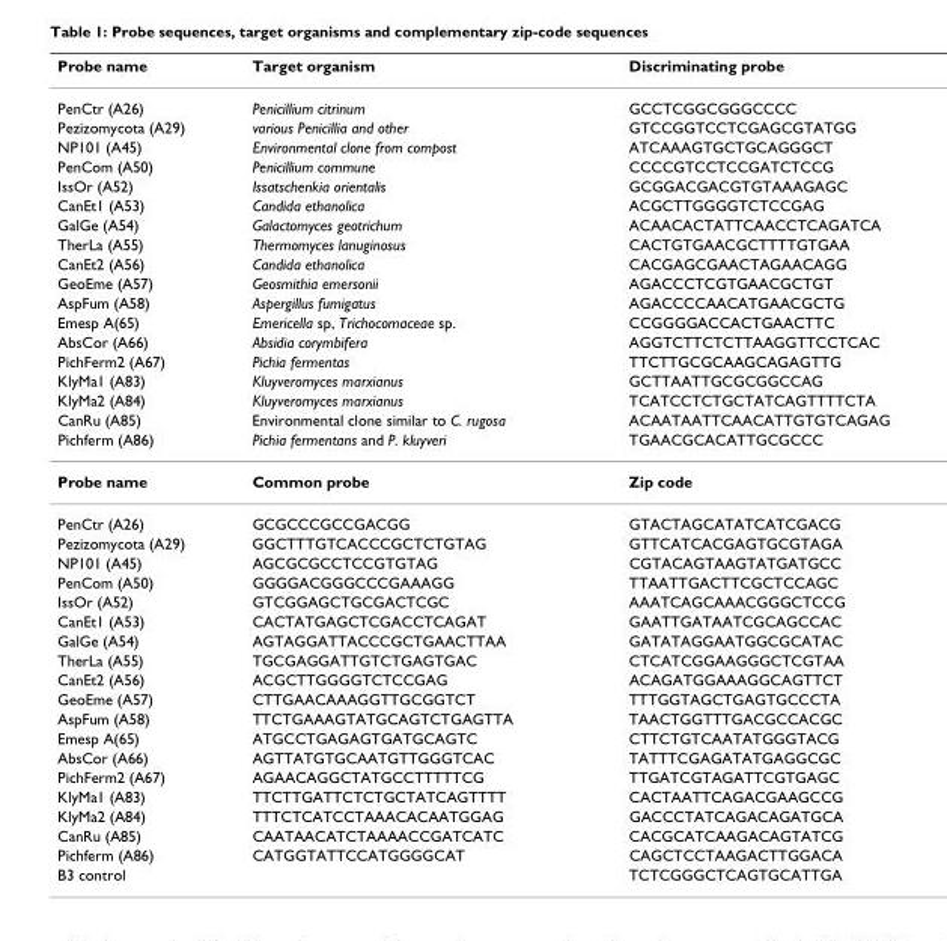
<table><thead><tr><td>Probe name</td><td>Target organism</td><td>Discriminating probe</td></tr></thead><tbody><tr><td>PenCtr (A26)</td><td>Penicillium citrinum</td><td>GCCTCGGCGGGCCCC</td></tr><tr><td>Pezizomycota (A29)</td><td>various Penicillia and other</td><td>GTCCGGTCCTCGAGCGTATGG</td></tr><tr><td>NP101 (A45)</td><td>Environmental clone from compost</td><td>ATCAAAGTGCTGCAGGGCT</td></tr><tr><td>PenCom (A50)</td><td>Penicillium commune</td><td>CCCCGTCCTCCGATCTCCG</td></tr><tr><td>IssOr (A52)</td><td>Issatschenkia orientalis</td><td>GCGGACGACGTGTAAAGAGC</td></tr><tr><td>CanEt1 (A53)</td><td>Candida ethanolica</td><td>ACGCTTGGGGTCTCCGAG</td></tr><tr><td>GalGe (A54)</td><td>Galactomyces geotrichum</td><td>ACAACACTATTCAACCTCAGATCA</td></tr><tr><td>TherLa (A55)</td><td>Thermomyces lanuginosus</td><td>CACTGTGAACGCTTTTGTGAA</td></tr><tr><td>CanEt2 (A56)</td><td>Candida ethanolica</td><td>CACGAGCGAACTAGAACAGG</td></tr><tr><td>GeoEme (A57)</td><td>Geosmithia emersonii</td><td>AGACCCTCGTGAACGCTGT</td></tr><tr><td>AspFum (A58)</td><td>Aspergillus fumigatus</td><td>AGACCCCAACATGAACGCTG</td></tr><tr><td>Emesp A(65)</td><td>Emericella sp, Trichocomaceae sp.</td><td>CCGGGGACCACTGAACTTC</td></tr><tr><td>AbsCor (A66)</td><td>Absidia corymbifera</td><td>AGGTCTTCTCTTAAGGTTCCTCAC</td></tr><tr><td>PichFerm2 (A67)</td><td>Pichia fermentas</td><td>TTCTTGCGCAAGCAGAGTTG</td></tr><tr><td>KlyMa1 (A83)</td><td>Kluyveromyces marxianus</td><td>GCTTAATTGCGCGGCCAG</td></tr><tr><td>KlyMa2 (A84)</td><td>Kluyveromyces marxianus</td><td>TCATCCTCTGCTATCAGTTTTCTA</td></tr><tr><td>CanRu (A85)</td><td>Environmental clone similar to C. rugosa</td><td>ACAATAATTCAACATTGTGTCAGAG</td></tr><tr><td>Pichferm (A86)</td><td>Pichia fermentans and P. kluyveri</td><td>TGAACGCACATTGCGCCC</td></tr><tr><td>Probe name</td><td>Common probe</td><td>Zip code</td></tr><tr><td>PenCtr (A26)</td><td>GCGCCCGCCGACGG</td><td>GTACTAGCATATCATCGACG</td></tr><tr><td>Pezizomycota (A29)</td><td>GGCTTTGTCACCCGCTCTGTAG</td><td>GTTCATCACGAGTGCGTAGA</td></tr><tr><td>NP101 (A45)</td><td>AGCGCGCCTCCGTGTAG</td><td>CGTACAGTAAGTATGATGCC</td></tr><tr><td>PenCom (A50)</td><td>GGGGACGGGCCCGAAAGG</td><td>TTAATTGACTTCGCTCCAGC</td></tr><tr><td>IssOr (A52)</td><td>GTCGGAGCTGCGACTCGC</td><td>AAATCAGCAAACGGGCTCCG</td></tr><tr><td>CanEt1 (A53)</td><td>CACTATGAGCTCGACCTCAGAT</td><td>GAATTGATAATCGCAGCCAC</td></tr><tr><td>GalGe (A54)</td><td>AGTAGGATTACCCGCTGAACTTAA</td><td>GATATAGGAATGGCGCATAC</td></tr><tr><td>TherLa (A55)</td><td>TGCGAGGATTGTCTGAGTGAC</td><td>CTCATCGGAAGGGCTCGTAA</td></tr><tr><td>CanEt2 (A56)</td><td>ACGCTTGGGGTCTCCGAG</td><td>ACAGATGGAAAGGCAGTTCT</td></tr><tr><td>GeoEme (A57)</td><td>CTTGAACAAAGGTTGCGGTCT</td><td>TTTGGTAGCTGAGTGCCCTA</td></tr><tr><td>AspFum (A58)</td><td>TTCTGAAAGTATGCAGTCTGAGTTA</td><td>TAACTGGTTTGACGCCACGC</td></tr><tr><td>Emesp A(65)</td><td>ATGCCTGAGAGTGATGCAGTC</td><td>CTTCTGTCAATATGGGTACG</td></tr><tr><td>AbsCor (A66)</td><td>AGTTATGTGCAATGTTGGGTCAC</td><td>TATTTCGAGATATGAGGCGC</td></tr><tr><td>PichFerm2 (A67)</td><td>AGAACAGGCTATGCCTTTTTCG</td><td>TTGATCGTAGATTCGTGAGC</td></tr><tr><td>KlyMa1 (A83)</td><td>TTCTTGATTCTCTGCTATCAGTTTT</td><td>CACTAATTCAGACGAAGCCG</td></tr><tr><td>KlyMa2 (A84)</td><td>TTTCTCATCCTAAACACAATGGAG</td><td>GACCCTATCAGACAGATGCA</td></tr><tr><td>CanRu (A85)</td><td>CAATAACATCTAAAACCGATCATC</td><td>CACGCATCAAGACAGTATCG</td></tr><tr><td>Pichferm (A86)</td><td>CATGGTATTCCATGGGGCAT</td><td>CAGCTCCTAAGACTTGGACA</td></tr><tr><td>B3 control</td><td></td><td>TCTCGGGCTCAGTGCATTGA</td></tr></tbody></table>